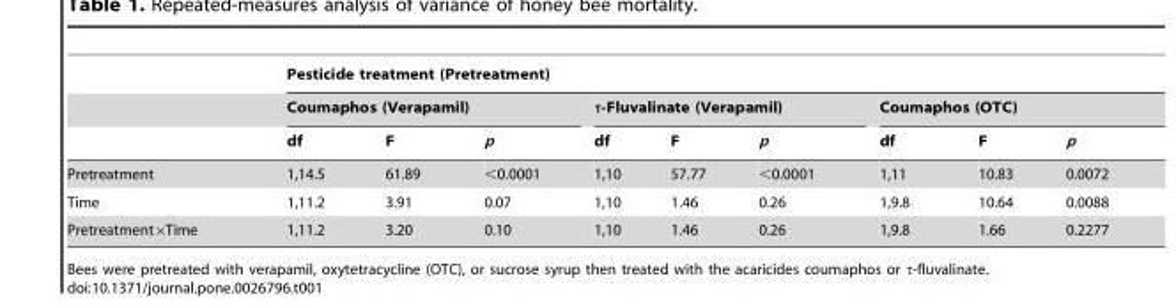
<table><thead><tr><td rowspan="3"></td><td colspan="9">Pesticide treatment (Pretreatment)</td></tr><tr><td colspan="3">Coumaphos (Verapamil)</td><td colspan="3">τ-Fluvalinate (Verapamil)</td><td colspan="3">Coumaphos (OTC)</td></tr><tr><td>df</td><td>F</td><td>p</td><td>df</td><td>F</td><td>p</td><td>df</td><td>F</td><td>p</td></tr></thead><tbody><tr><td>Pretreatment</td><td>1,14.5</td><td>61.89</td><td>&lt;0.0001</td><td>1,10</td><td>57.77</td><td>&lt;0.0001</td><td>1,11</td><td>10.83</td><td>0.0072</td></tr><tr><td>Time</td><td>1,11.2</td><td>3.91</td><td>0.07</td><td>1,10</td><td>1.46</td><td>0.26</td><td>1,9.8</td><td>10.64</td><td>0.0088</td></tr><tr><td>Pretreatment×Time</td><td>1,11.2</td><td>3.20</td><td>0.10</td><td>1,10</td><td>1.46</td><td>0.26</td><td>1,9.8</td><td>1.66</td><td>0.2277</td></tr></tbody></table>